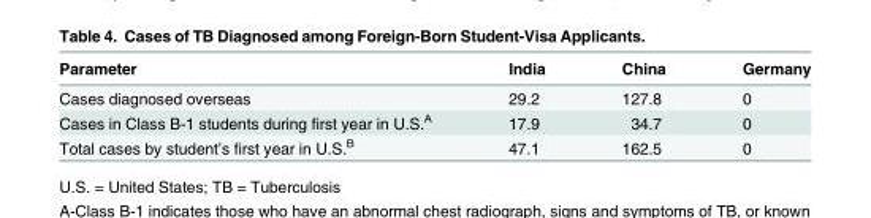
<table><thead><tr><td>Parameter</td><td>India</td><td>China</td><td>Germany</td></tr></thead><tbody><tr><td>Cases diagnosed overseas</td><td>29.2</td><td>127.8</td><td>0</td></tr><tr><td>Cases in Class B-1 students during first year in U.S.<sup>A</sup></td><td>17.9</td><td>34.7</td><td>0</td></tr><tr><td>Total cases by student’s first year in U.S.<sup>B</sup></td><td>47.1</td><td>162.5</td><td>0</td></tr></tbody></table>